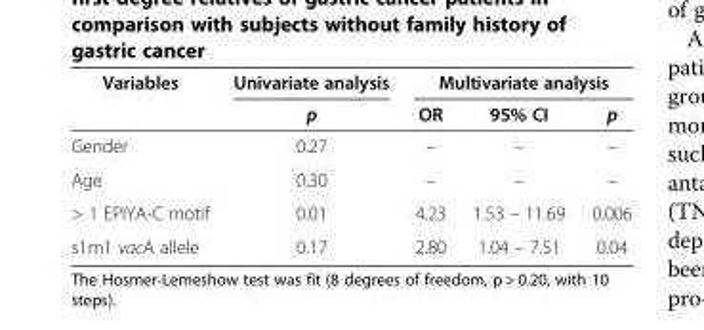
<table><thead><tr><td rowspan="2">Variables</td><td rowspan="2">Univariate analysis p</td><td colspan="3">Multivariate analysis</td></tr><tr><td>OR</td><td>95% CI</td><td>p</td></tr></thead><tbody><tr><td>Gender</td><td>0.27</td><td>–</td><td>–</td><td>–</td></tr><tr><td>Age</td><td>0.30</td><td>–</td><td>–</td><td>–</td></tr><tr><td>&gt; 1 EPIYA-C motif</td><td>0.01</td><td>4.23</td><td>1.53 – 11.69</td><td>0.006</td></tr><tr><td>s1m1 vacA allele</td><td>0.17</td><td>2.80</td><td>1.04 – 7.51</td><td>0.04</td></tr></tbody></table>